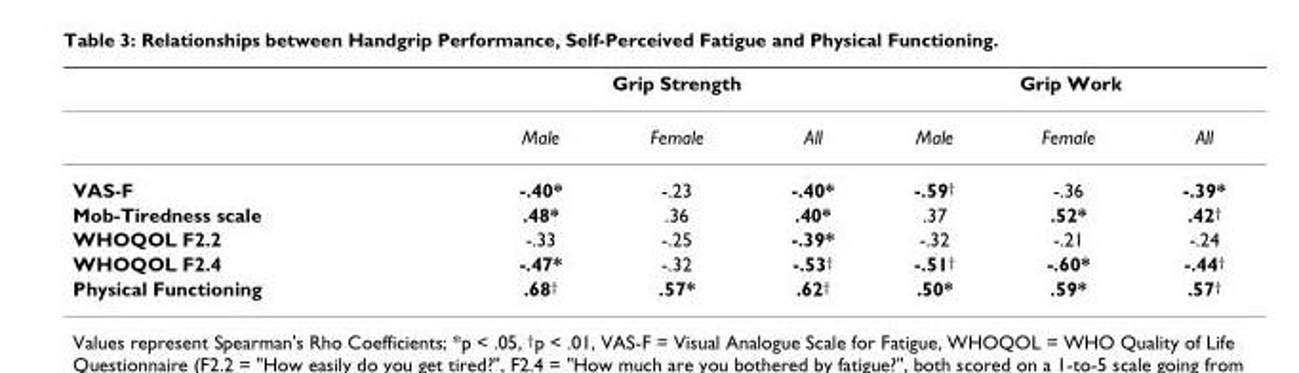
<table><thead><tr><td rowspan="2"></td><td colspan="3">Grip Strength</td><td colspan="3">Grip Work</td></tr><tr><td>Male</td><td>Female</td><td>All</td><td>Male</td><td>Female</td><td>All</td></tr></thead><tbody><tr><td>VAS-F</td><td>-.40*</td><td>-.23</td><td>-.40*</td><td>-.59†</td><td>-.36</td><td>-.39*</td></tr><tr><td>Mob-Tiredness scale</td><td>.48*</td><td>.36</td><td>.40*</td><td>.37</td><td>.52*</td><td>.42†</td></tr><tr><td>WHOQOL F2.2</td><td>-.33</td><td>-.25</td><td>-.39*</td><td>-.32</td><td>-.21</td><td>-.24</td></tr><tr><td>WHOQOL F2.4</td><td>-.47*</td><td>-.32</td><td>-.53†</td><td>-.51†</td><td>-.60*</td><td>-.44†</td></tr><tr><td>Physical Functioning</td><td>.68†</td><td>.57*</td><td>.62†</td><td>.50*</td><td>.59*</td><td>.57†</td></tr></tbody></table>